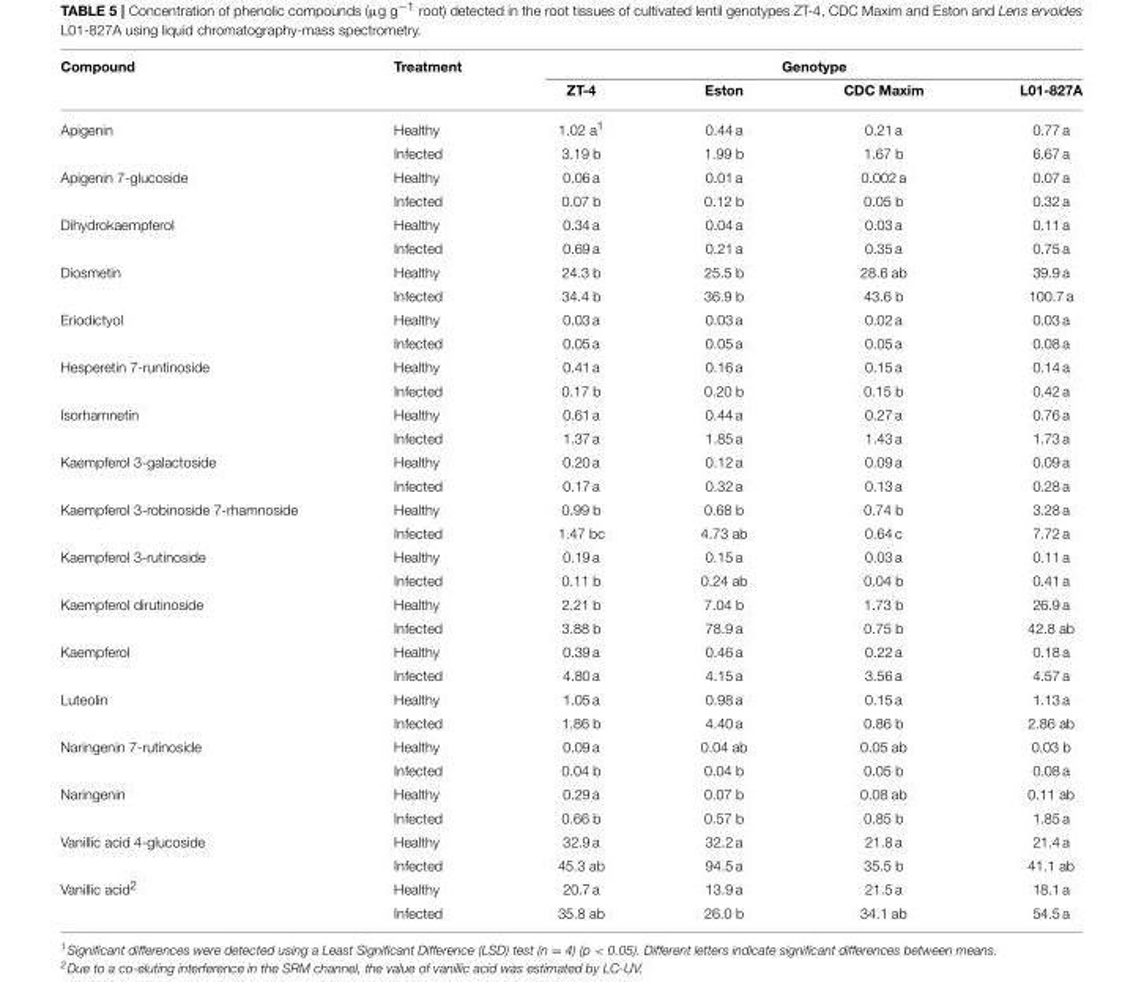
<table><thead><tr><td rowspan="2">Compound</td><td rowspan="2">Treatment</td><td colspan="4">Genotype</td></tr><tr><td>ZT-4</td><td>Eston</td><td>CDC Maxim</td><td>L01-827A</td></tr></thead><tbody><tr><td rowspan="2">Apigenin</td><td>Healthy</td><td>1.02 a<sup>1</sup></td><td>0.44 a</td><td>0.21 a</td><td>0.77 a</td></tr><tr><td>Infected</td><td>3.19 b</td><td>1.99 b</td><td>1.67 b</td><td>6.67 a</td></tr><tr><td rowspan="2">Apigenin 7-glucoside</td><td>Healthy</td><td>0.06 a</td><td>0.01 a</td><td>0.002 a</td><td>0.07 a</td></tr><tr><td>Infected</td><td>0.07 b</td><td>0.12 b</td><td>0.05 b</td><td>0.32 a</td></tr><tr><td rowspan="2">Dihydrokaempferol</td><td>Healthy</td><td>0.34 a</td><td>0.04 a</td><td>0.03 a</td><td>0.11 a</td></tr><tr><td>Infected</td><td>0.69 a</td><td>0.21 a</td><td>0.35 a</td><td>0.75 a</td></tr><tr><td rowspan="2">Diosmetin</td><td>Healthy</td><td>24.3 b</td><td>25.5 b</td><td>28.6 ab</td><td>39.9 a</td></tr><tr><td>Infected</td><td>34.4 b</td><td>36.9 b</td><td>43.6 b</td><td>100.7 a</td></tr><tr><td rowspan="2">Eriodictyol</td><td>Healthy</td><td>0.03 a</td><td>0.03 a</td><td>0.02 a</td><td>0.03 a</td></tr><tr><td>Infected</td><td>0.05 a</td><td>0.05 a</td><td>0.05 a</td><td>0.08 a</td></tr><tr><td rowspan="2">Hesperetin 7-runtinoside</td><td>Healthy</td><td>0.41 a</td><td>0.16 a</td><td>0.15 a</td><td>0.14 a</td></tr><tr><td>Infected</td><td>0.17 b</td><td>0.20 b</td><td>0.15 b</td><td>0.42 a</td></tr><tr><td rowspan="2">Isorhamnetin</td><td>Healthy</td><td>0.61 a</td><td>0.44 a</td><td>0.27 a</td><td>0.76 a</td></tr><tr><td>Infected</td><td>1.37 a</td><td>1.85 a</td><td>1.43 a</td><td>1.73 a</td></tr><tr><td rowspan="2">Kaempferol 3-galactoside</td><td>Healthy</td><td>0.20 a</td><td>0.12 a</td><td>0.09 a</td><td>0.09 a</td></tr><tr><td>Infected</td><td>0.17 a</td><td>0.32 a</td><td>0.13 a</td><td>0.28 a</td></tr><tr><td rowspan="2">Kaempferol 3-robinoside 7-rhamnoside</td><td>Healthy</td><td>0.99 b</td><td>0.68 b</td><td>0.74 b</td><td>3.28 a</td></tr><tr><td>Infected</td><td>1.47 bc</td><td>4.73 ab</td><td>0.64 c</td><td>7.72 a</td></tr><tr><td rowspan="2">Kaempferol 3-rutinoside</td><td>Healthy</td><td>0.19 a</td><td>0.15 a</td><td>0.03 a</td><td>0.11 a</td></tr><tr><td>Infected</td><td>0.11 b</td><td>0.24 ab</td><td>0.04 b</td><td>0.41 a</td></tr><tr><td rowspan="2">Kaempferol dirutinoside</td><td>Healthy</td><td>2.21 b</td><td>7.04 b</td><td>1.73 b</td><td>26.9 a</td></tr><tr><td>Infected</td><td>3.88 b</td><td>78.9 a</td><td>0.75 b</td><td>42.8 ab</td></tr><tr><td rowspan="2">Kaempferol</td><td>Healthy</td><td>0.39 a</td><td>0.46 a</td><td>0.22 a</td><td>0.18 a</td></tr><tr><td>Infected</td><td>4.80 a</td><td>4.15 a</td><td>3.56 a</td><td>4.57 a</td></tr><tr><td rowspan="2">Luteolin</td><td>Healthy</td><td>1.05 a</td><td>0.98 a</td><td>0.15 a</td><td>1.13 a</td></tr><tr><td>Infected</td><td>1.86 b</td><td>4.40 a</td><td>0.86 b</td><td>2.86 ab</td></tr><tr><td rowspan="2">Naringenin 7-rutinoside</td><td>Healthy</td><td>0.09 a</td><td>0.04 ab</td><td>0.05 ab</td><td>0.03 b</td></tr><tr><td>Infected</td><td>0.04 b</td><td>0.04 b</td><td>0.05 b</td><td>0.08 a</td></tr><tr><td rowspan="2">Naringenin</td><td>Healthy</td><td>0.29 a</td><td>0.07 b</td><td>0.08 ab</td><td>0.11 ab</td></tr><tr><td>Infected</td><td>0.66 b</td><td>0.57 b</td><td>0.85 b</td><td>1.85 a</td></tr><tr><td rowspan="2">Vanillic acid 4-glucoside</td><td>Healthy</td><td>32.9 a</td><td>32.2 a</td><td>21.8 a</td><td>21.4 a</td></tr><tr><td>Infected</td><td>45.3 ab</td><td>94.5 a</td><td>35.5 b</td><td>41.1 ab</td></tr><tr><td rowspan="2">Vanillic acid<sup>2</sup></td><td>Healthy</td><td>20.7 a</td><td>13.9 a</td><td>21.5 a</td><td>18.1 a</td></tr><tr><td>Infected</td><td>35.8 ab</td><td>26.0 b</td><td>34.1 ab</td><td>54.5 a</td></tr></tbody></table>